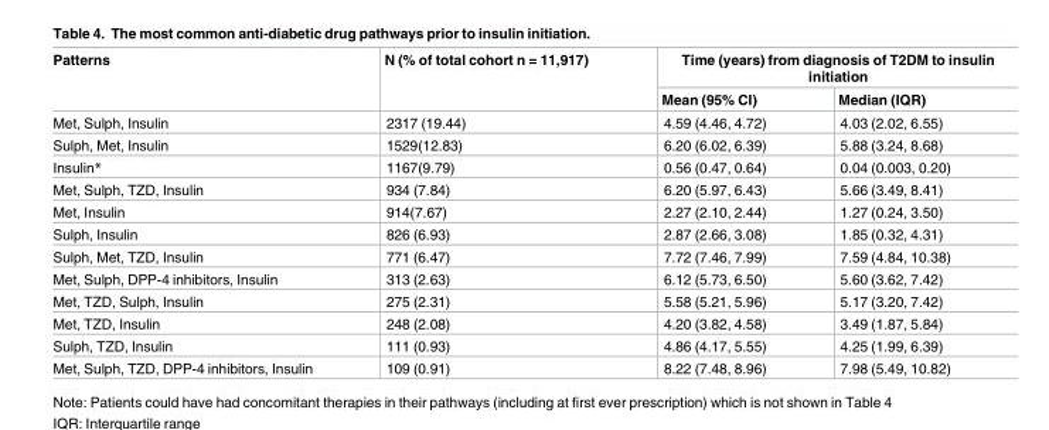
<table><thead><tr><td rowspan="2">Patterns</td><td rowspan="2">N (% of total cohort n = 11,917)</td><td colspan="2">Time (years) from diagnosis of T2DM to insulin initiation</td></tr><tr><td>Mean (95% CI)</td><td>Median (IQR)</td></tr></thead><tbody><tr><td>Met, Sulph, Insulin</td><td>2317 (19.44)</td><td>4.59 (4.46, 4.72)</td><td>4.03 (2.02, 6.55)</td></tr><tr><td>Sulph, Met, Insulin</td><td>1529(12.83)</td><td>6.20 (6.02, 6.39)</td><td>5.88 (3.24, 8.68)</td></tr><tr><td>Insulin*</td><td>1167(9.79)</td><td>0.56 (0.47, 0.64)</td><td>0.04 (0.003, 0.20)</td></tr><tr><td>Met, Sulph, TZD, Insulin</td><td>934 (7.84)</td><td>6.20 (5.97, 6.43)</td><td>5.66 (3.49, 8.41)</td></tr><tr><td>Met, Insulin</td><td>914(7.67)</td><td>2.27 (2.10, 2.44)</td><td>1.27 (0.24, 3.50)</td></tr><tr><td>Sulph, Insulin</td><td>826 (6.93)</td><td>2.87 (2.66, 3.08)</td><td>1.85 (0.32, 4.31)</td></tr><tr><td>Sulph, Met, TZD, Insulin</td><td>771 (6.47)</td><td>7.72 (7.46, 7.99)</td><td>7.59 (4.84, 10.38)</td></tr><tr><td>Met, Sulph, DPP-4 inhibitors, Insulin</td><td>313 (2.63)</td><td>6.12 (5.73, 6.50)</td><td>5.60 (3.62, 7.42)</td></tr><tr><td>Met, TZD, Sulph, Insulin</td><td>275 (2.31)</td><td>5.58 (5.21, 5.96)</td><td>5.17 (3.20, 7.42)</td></tr><tr><td>Met, TZD, Insulin</td><td>248 (2.08)</td><td>4.20 (3.82, 4.58)</td><td>3.49 (1.87, 5.84)</td></tr><tr><td>Sulph, TZD, Insulin</td><td>111 (0.93)</td><td>4.86 (4.17, 5.55)</td><td>4.25 (1.99, 6.39)</td></tr><tr><td>Met, Sulph, TZD, DPP-4 inhibitors, Insulin</td><td>109 (0.91)</td><td>8.22 (7.48, 8.96)</td><td>7.98 (5.49, 10.82)</td></tr></tbody></table>